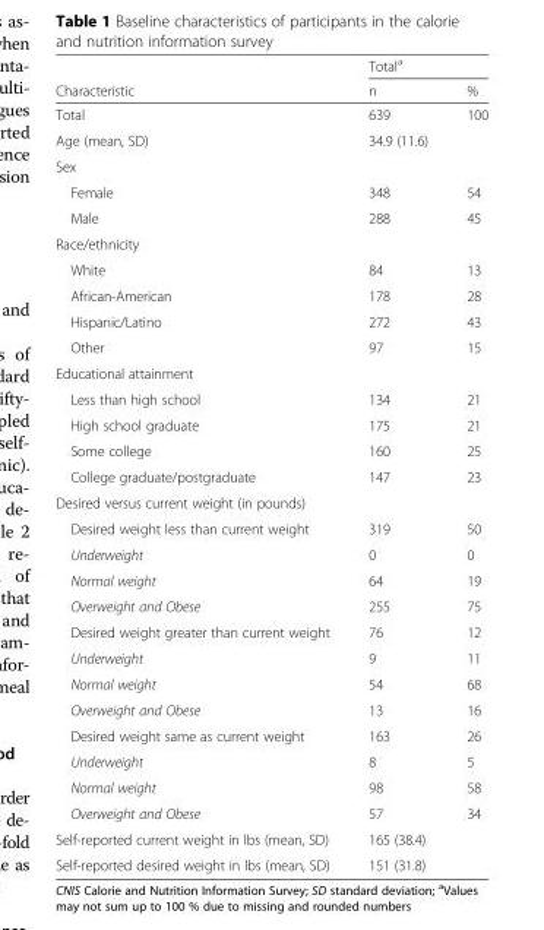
<table><thead><tr><td rowspan="2">Characteristic</td><td colspan="2">Total<sup>a</sup></td></tr><tr><td>n</td><td>%</td></tr></thead><tbody><tr><td>Total</td><td>639</td><td>100</td></tr><tr><td>Age (mean, SD)</td><td>34.9 (11.6)</td><td></td></tr><tr><td colspan="3">Sex</td></tr><tr><td>Female</td><td>348</td><td>54</td></tr><tr><td>Male</td><td>288</td><td>45</td></tr><tr><td colspan="3">Race/ethnicity</td></tr><tr><td>White</td><td>84</td><td>13</td></tr><tr><td>African-American</td><td>178</td><td>28</td></tr><tr><td>Hispanic/Latino</td><td>272</td><td>43</td></tr><tr><td>Other</td><td>97</td><td>15</td></tr><tr><td colspan="3">Educational attainment</td></tr><tr><td>Less than high school</td><td>134</td><td>21</td></tr><tr><td>High school graduate</td><td>175</td><td>21</td></tr><tr><td>Some college</td><td>160</td><td>25</td></tr><tr><td>College graduate/postgraduate</td><td>147</td><td>23</td></tr><tr><td colspan="3">Desired versus current weight (in pounds)</td></tr><tr><td>Desired weight less than current weight</td><td>319</td><td>50</td></tr><tr><td>Underweight</td><td>0</td><td>0</td></tr><tr><td>Normal weight</td><td>64</td><td>19</td></tr><tr><td>Overweight and Obese</td><td>255</td><td>75</td></tr><tr><td>Desired weight greater than current weight</td><td>76</td><td>12</td></tr><tr><td>Underweight</td><td>9</td><td>11</td></tr><tr><td>Normal weight</td><td>54</td><td>68</td></tr><tr><td>Overweight and Obese</td><td>13</td><td>16</td></tr><tr><td>Desired weight same as current weight</td><td>163</td><td>26</td></tr><tr><td>Underweight</td><td>8</td><td>5</td></tr><tr><td>Normal weight</td><td>98</td><td>58</td></tr><tr><td>Overweight and Obese</td><td>57</td><td>34</td></tr><tr><td>Self-reported current weight in lbs (mean, SD)</td><td>165 (38.4)</td><td></td></tr><tr><td>Self-reported desired weight in lbs (mean, SD)</td><td>151 (31.8)</td><td></td></tr></tbody></table>